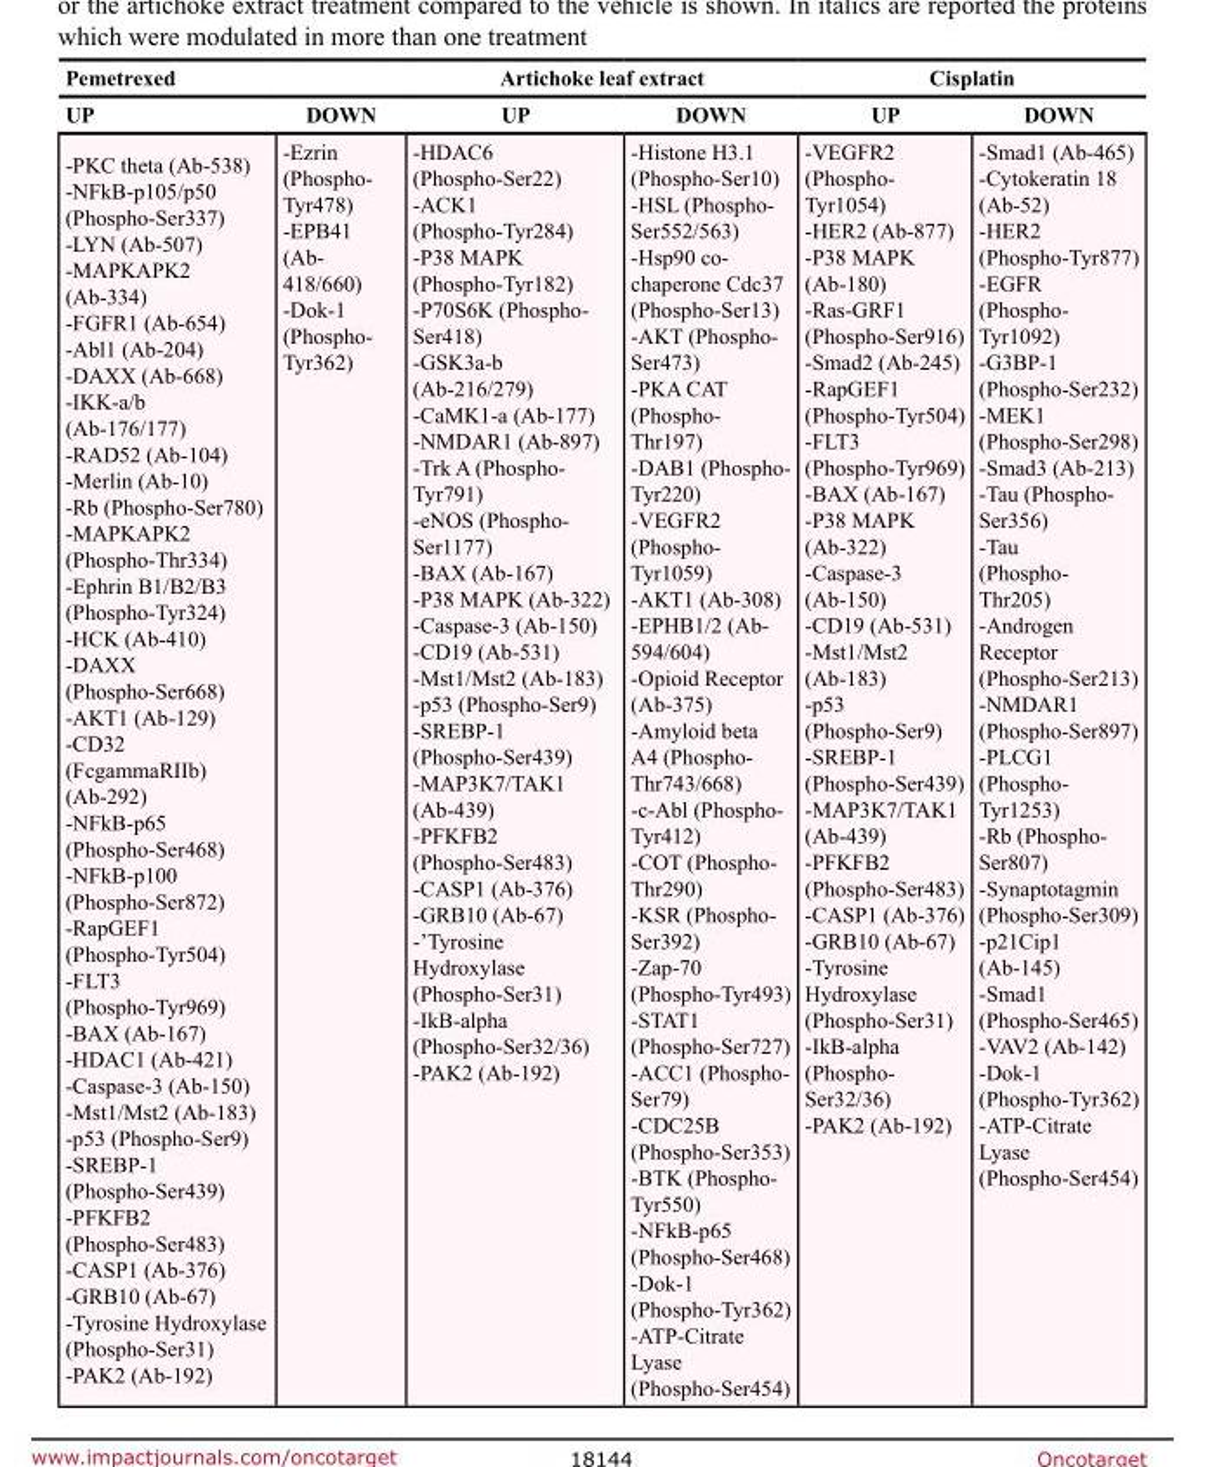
<table><thead><tr><td colspan="2">Pemetrexed</td><td colspan="2">Artichoke leaf extract</td><td colspan="2">Cisplatin</td></tr><tr><td>UP</td><td>DOWN</td><td>UP</td><td>DOWN</td><td>UP</td><td>DOWN</td></tr></thead><tbody><tr><td>-PKC theta (Ab-538) -NFkB-p105/p50 (Phospho-Ser337) -LYN (Ab-507) -MAPKAPK2 (Ab-334) -FGFR1 (Ab-654) -Abl1 (Ab-204) -DAXX (Ab-668) -IKK-a/b (Ab-176/177) -RAD52 (Ab-104) -Merlin (Ab-10) -Rb (Phospho-Ser780) -MAPKAPK2 (Phospho-Thr334) -Ephrin B1/B2/B3 (Phospho-Tyr324) -HCK (Ab-410) -DAXX (Phospho-Ser668) -AKT1 (Ab-129) -CD32 (FcgammaRIIb) (Ab-292) -NFkB-p65 (Phospho-Ser468) -NFkB-p100 (Phospho-Ser872) -RapGEF1 (Phospho-Tyr504) -FLT3 (Phospho-Tyr969) -BAX (Ab-167) -HDAC1 (Ab-421) -Caspase-3 (Ab-150) -Mst1/Mst2 (Ab-183) -p53 (Phospho-Ser9) -SREBP-1 (Phospho-Ser439) -PFKFB2 (Phospho-Ser483) -CASP1 (Ab-376) -GRB10 (Ab-67) -Tyrosine Hydroxylase (Phospho-Ser31) -PAK2 (Ab-192)</td><td>-Ezrin (Phospho- Tyr478) -EPB41 (Ab- 418/660) -Dok-1 (Phospho- Tyr362)</td><td>-HDAC6 (Phospho-Ser22) -ACK1 (Phospho-Tyr284) -P38 MAPK (Phospho-Tyr182) -P70S6K (Phospho- Ser418) -GSK3a-b (Ab-216/279) -CaMK1-a (Ab-177) -NMDAR1 (Ab-897) -Trk A (Phospho- Tyr791) -eNOS (Phospho- Ser1177) -BAX (Ab-167) -P38 MAPK (Ab-322) -Caspase-3 (Ab-150) -CD19 (Ab-531) -Mst1/Mst2 (Ab-183) -p53 (Phospho-Ser9) -SREBP-1 (Phospho-Ser439) -MAP3K7/TAK1 (Ab-439) -PFKFB2 (Phospho-Ser483) -CASP1 (Ab-376) -GRB10 (Ab-67) -’Tyrosine Hydroxylase (Phospho-Ser31) -IkB-alpha (Phospho-Ser32/36) -PAK2 (Ab-192)</td><td>-Histone H3.1 (Phospho-Ser10) -HSL (Phospho- Ser552/563) -Hsp90 co- chaperone Cdc37 (Phospho-Ser13) -AKT (Phospho- Ser473) -PKA CAT (Phospho- Thr197) -DAB1 (Phospho- Tyr220) -VEGFR2 (Phospho- Tyr1059) -AKT1 (Ab-308) -EPHB1/2 (Ab- 594/604) -Opioid Receptor (Ab-375) -Amyloid beta A4 (Phospho- Thr743/668) -c-Abl (Phospho- Tyr412) -COT (Phospho- Thr290) -KSR (Phospho- Ser392) -Zap-70 (Phospho-Tyr493) -STAT1 (Phospho-Ser727) -ACC1 (Phospho- Ser79) -CDC25B (Phospho-Ser353) -BTK (Phospho- Tyr550) -NFkB-p65 (Phospho-Ser468) -Dok-1 (Phospho-Tyr362) -ATP-Citrate Lyase (Phospho-Ser454)</td><td>-VEGFR2 (Phospho- Tyr1054) -HER2 (Ab-877) -P38 MAPK (Ab-180) -Ras-GRF1 (Phospho-Ser916) -Smad2 (Ab-245) -RapGEF1 (Phospho-Tyr504) -FLT3 (Phospho-Tyr969) -BAX (Ab-167) -P38 MAPK (Ab-322) -Caspase-3 (Ab-150) -CD19 (Ab-531) -Mst1/Mst2 (Ab-183) -p53 (Phospho-Ser9) -SREBP-1 (Phospho-Ser439) -MAP3K7/TAK1 (Ab-439) -PFKFB2 (Phospho-Ser483) -CASP1 (Ab-376) -GRB10 (Ab-67) -Tyrosine Hydroxylase (Phospho-Ser31) -IkB-alpha (Phospho- Ser32/36) -PAK2 (Ab-192)</td><td>-Smad1 (Ab-465) -Cytokeratin 18 (Ab-52) -HER2 (Phospho-Tyr877) -EGFR (Phospho- Tyr1092) -G3BP-1 (Phospho-Ser232) -MEK1 (Phospho-Ser298) -Smad3 (Ab-213) -Tau (Phospho- Ser356) -Tau (Phospho- Thr205) -Androgen Receptor (Phospho-Ser213) -NMDAR1 (Phospho-Ser897) -PLCG1 (Phospho- Tyr1253) -Rb (Phospho- Ser807) -Synaptotagmin (Phospho-Ser309) -p21Cip1 (Ab-145) -Smad1 (Phospho-Ser465) -VAV2 (Ab-142) -Dok-1 (Phospho-Tyr362) -ATP-Citrate Lyase (Phospho-Ser454)</td></tr></tbody></table>